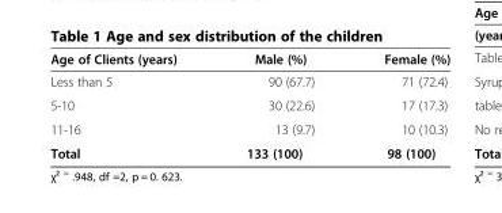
<table><thead><tr><td>Age of Clients (years)</td><td>Male (%)</td><td>Female (%)</td></tr></thead><tbody><tr><td>Less than 5</td><td>90 (67.7)</td><td>71 (72.4)</td></tr><tr><td>5-10</td><td>30 (22.6)</td><td>17 (17.3)</td></tr><tr><td>11-16</td><td>13 (9.7)</td><td>10 (10.3)</td></tr><tr><td>Total</td><td>133 (100)</td><td>98 (100)</td></tr></tbody></table>